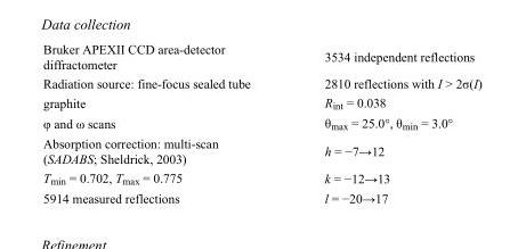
<table><tbody><tr><td>Bruker APEXII CCD area-detector diffractometer</td><td>3534 independent reflections</td></tr><tr><td>Radiation source: fine-focus sealed tube</td><td>2810 reflections with I &gt; 2σ(I)</td></tr><tr><td>graphite</td><td>R<sub>int</sub> = 0.038</td></tr><tr><td>φ and ω scans</td><td>θ<sub>max</sub> = 25.0°, θ<sub>min</sub> = 3.0°</td></tr><tr><td>Absorption correction: multi-scan (SADABS; Sheldrick, 2003)</td><td>h = −7→12</td></tr><tr><td>T<sub>min</sub> = 0.702, T<sub>max</sub> = 0.775</td><td>k = −12→13</td></tr><tr><td>5914 measured reflections</td><td>l = −20→17</td></tr></tbody></table>